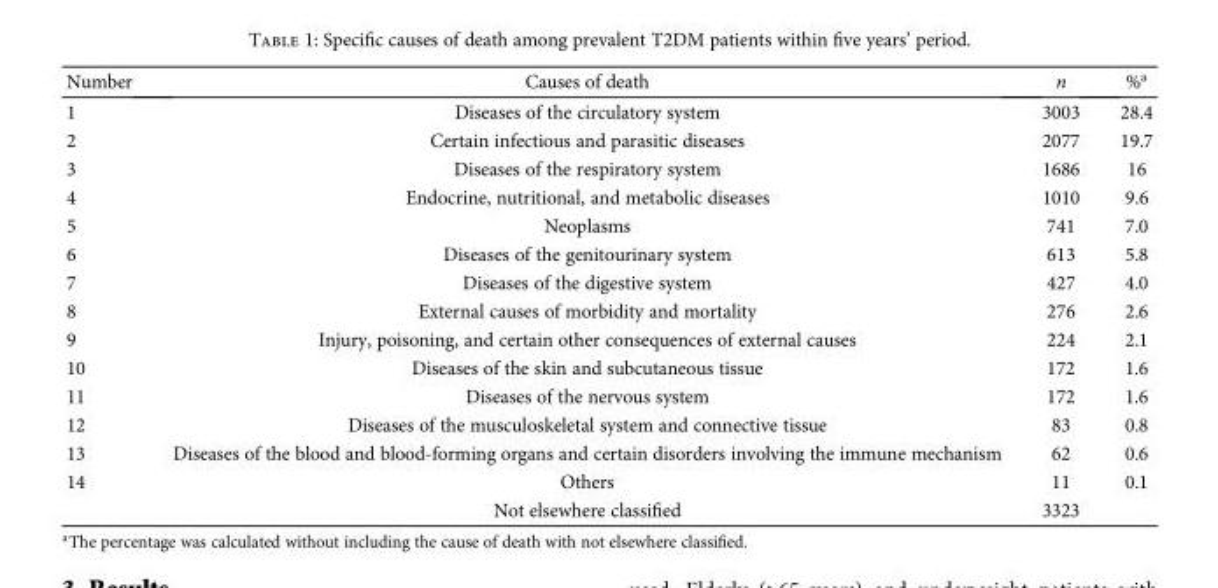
<table><thead><tr><td>Number</td><td>Causes of death</td><td>n</td><td>%<sup>a</sup></td></tr></thead><tbody><tr><td>1</td><td>Diseases of the circulatory system</td><td>3003</td><td>28.4</td></tr><tr><td>2</td><td>Certain infectious and parasitic diseases</td><td>2077</td><td>19.7</td></tr><tr><td>3</td><td>Diseases of the respiratory system</td><td>1686</td><td>16</td></tr><tr><td>4</td><td>Endocrine, nutritional, and metabolic diseases</td><td>1010</td><td>9.6</td></tr><tr><td>5</td><td>Neoplasms</td><td>741</td><td>7.0</td></tr><tr><td>6</td><td>Diseases of the genitourinary system</td><td>613</td><td>5.8</td></tr><tr><td>7</td><td>Diseases of the digestive system</td><td>427</td><td>4.0</td></tr><tr><td>8</td><td>External causes of morbidity and mortality</td><td>276</td><td>2.6</td></tr><tr><td>9</td><td>Injury, poisoning, and certain other consequences of external causes</td><td>224</td><td>2.1</td></tr><tr><td>10</td><td>Diseases of the skin and subcutaneous tissue</td><td>172</td><td>1.6</td></tr><tr><td>11</td><td>Diseases of the nervous system</td><td>172</td><td>1.6</td></tr><tr><td>12</td><td>Diseases of the musculoskeletal system and connective tissue</td><td>83</td><td>0.8</td></tr><tr><td>13</td><td>Diseases of the blood and blood-forming organs and certain disorders involving the immune mechanism</td><td>62</td><td>0.6</td></tr><tr><td rowspan="2">14</td><td>Others</td><td>11</td><td>0.1</td></tr><tr><td>Not elsewhere classified</td><td>3323</td><td></td></tr></tbody></table>